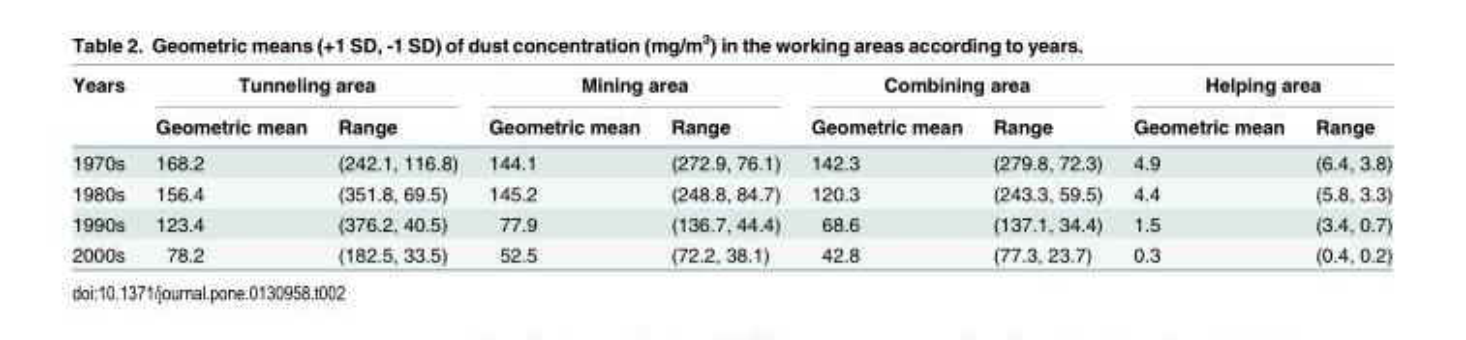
<table><thead><tr><td rowspan="2">Years</td><td colspan="2">Tunneling area</td><td colspan="2">Mining area</td><td colspan="2">Combining area</td><td colspan="2">Helping area</td></tr><tr><td>Geometric mean</td><td>Range</td><td>Geometric mean</td><td>Range</td><td>Geometric mean</td><td>Range</td><td>Geometric mean</td><td>Range</td></tr></thead><tbody><tr><td>1970s</td><td>168.2</td><td>(242.1, 116.8)</td><td>144.1</td><td>(272.9, 76.1)</td><td>142.3</td><td>(279.8, 72.3)</td><td>4.9</td><td>(6.4, 3.8)</td></tr><tr><td>1980s</td><td>156.4</td><td>(351.8, 69.5)</td><td>145.2</td><td>(248.8, 84.7)</td><td>120.3</td><td>(243.3, 59.5)</td><td>4.4</td><td>(5.8, 3.3)</td></tr><tr><td>1990s</td><td>123.4</td><td>(376.2, 40.5)</td><td>77.9</td><td>(136.7, 44.4)</td><td>68.6</td><td>(137.1, 34.4)</td><td>1.5</td><td>(3.4, 0.7)</td></tr><tr><td>2000s</td><td>78.2</td><td>(182.5, 33.5)</td><td>52.5</td><td>(72.2, 38.1)</td><td>42.8</td><td>(77.3, 23.7)</td><td>0.3</td><td>(0.4, 0.2)</td></tr></tbody></table>